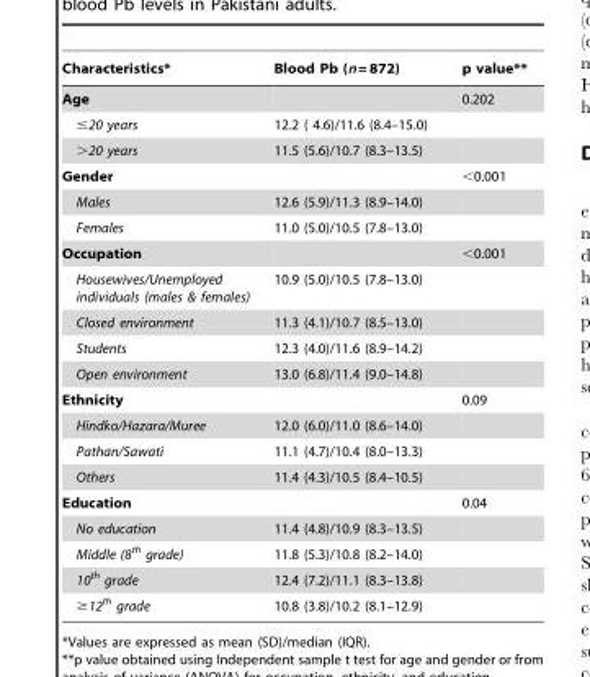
<table><thead><tr><td>Characteristics*</td><td>Blood Pb (n = 872)</td><td>p value**</td></tr></thead><tbody><tr><td>Age</td><td></td><td>0.202</td></tr><tr><td>≤20 years</td><td>12.2 ( 4.6)/11.6 (8.4–15.0)</td><td></td></tr><tr><td>&gt;20 years</td><td>11.5 (5.6)/10.7 (8.3–13.5)</td><td></td></tr><tr><td>Gender</td><td></td><td>&lt;0.001</td></tr><tr><td>Males</td><td>12.6 (5.9)/11.3 (8.9–14.0)</td><td></td></tr><tr><td>Females</td><td>11.0 (5.0)/10.5 (7.8–13.0)</td><td></td></tr><tr><td>Occupation</td><td></td><td>&lt;0.001</td></tr><tr><td>Housewives/Unemployed individuals (males &amp; females)</td><td>10.9 (5.0)/10.5 (7.8–13.0)</td><td></td></tr><tr><td>Closed environment</td><td>11.3 (4.1)/10.7 (8.5–13.0)</td><td></td></tr><tr><td>Students</td><td>12.3 (4.0)/11.6 (8.9–14.2)</td><td></td></tr><tr><td>Open environment</td><td>13.0 (6.8)/11.4 (9.0–14.8)</td><td></td></tr><tr><td>Ethnicity</td><td></td><td>0.09</td></tr><tr><td>Hindko/Hazara/Muree</td><td>12.0 (6.0)/11.0 (8.6–14.0)</td><td></td></tr><tr><td>Pathan/Sawati</td><td>11.1 (4.7)/10.4 (8.0–13.3)</td><td></td></tr><tr><td>Others</td><td>11.4 (4.3)/10.5 (8.4–10.5)</td><td></td></tr><tr><td>Education</td><td></td><td>0.04</td></tr><tr><td>No education</td><td>11.4 (4.8)/10.9 (8.3–13.5)</td><td></td></tr><tr><td>Middle (8<sup>th</sup> grade)</td><td>11.8 (5.3)/10.8 (8.2–14.0)</td><td></td></tr><tr><td>10<sup>th</sup> grade</td><td>12.4 (7.2)/11.1 (8.3–13.8)</td><td></td></tr><tr><td>≥12<sup>th</sup> grade</td><td>10.8 (3.8)/10.2 (8.1–12.9)</td><td></td></tr></tbody></table>